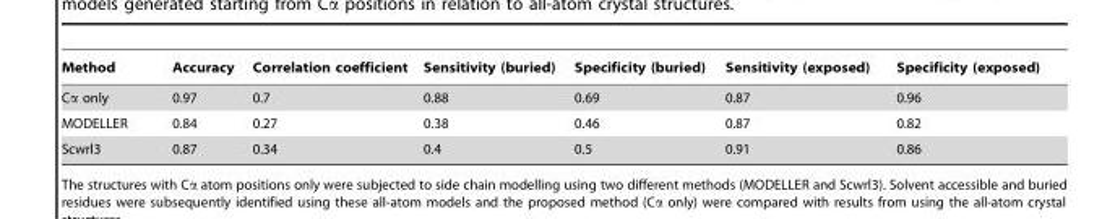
<table><thead><tr><td>Method</td><td>Accuracy</td><td>Correlation coefficient</td><td>Sensitivity (buried)</td><td>Specificity (buried)</td><td>Sensitivity (exposed)</td><td>Specificity (exposed)</td></tr></thead><tbody><tr><td>Cα only</td><td>0.97</td><td>0.7</td><td>0.88</td><td>0.69</td><td>0.87</td><td>0.96</td></tr><tr><td>MODELLER</td><td>0.84</td><td>0.27</td><td>0.38</td><td>0.46</td><td>0.87</td><td>0.82</td></tr><tr><td>Scwrl3</td><td>0.87</td><td>0.34</td><td>0.4</td><td>0.5</td><td>0.91</td><td>0.86</td></tr></tbody></table>